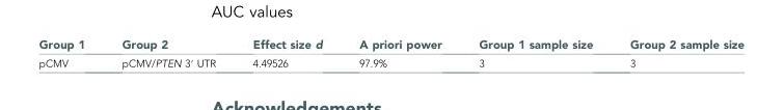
<table><thead><tr><td>Group 1</td><td>Group 2</td><td>Effect size d</td><td>A priori power</td><td>Group 1 sample size</td><td>Group 2 sample size</td></tr></thead><tbody><tr><td>pCMV</td><td>pCMV/PTEN 3′ UTR</td><td>4.49526</td><td>97.9%</td><td>3</td><td>3</td></tr></tbody></table>